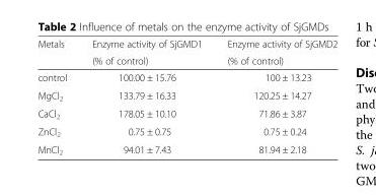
<table><thead><tr><td rowspan="2">Metals</td><td rowspan="2">Enzyme activity of SjGMD1 (% of control)</td><td rowspan="2">Enzyme activity of SjGMD2 (% of control)</td></tr><tr></tr></thead><tbody><tr><td>control</td><td>100.00 ± 15.76</td><td>100 ± 13.23</td></tr><tr><td>MgCl<sub>2</sub></td><td>133.79 ± 16.33</td><td>120.25 ± 14.27</td></tr><tr><td>CaCl<sub>2</sub></td><td>178.05 ± 10.10</td><td>71.86 ± 3.87</td></tr><tr><td>ZnCl<sub>2</sub></td><td>0.75 ± 0.75</td><td>0.75 ± 0.24</td></tr><tr><td>MnCl<sub>2</sub></td><td>94.01 ± 7.43</td><td>81.94 ± 2.18</td></tr></tbody></table>